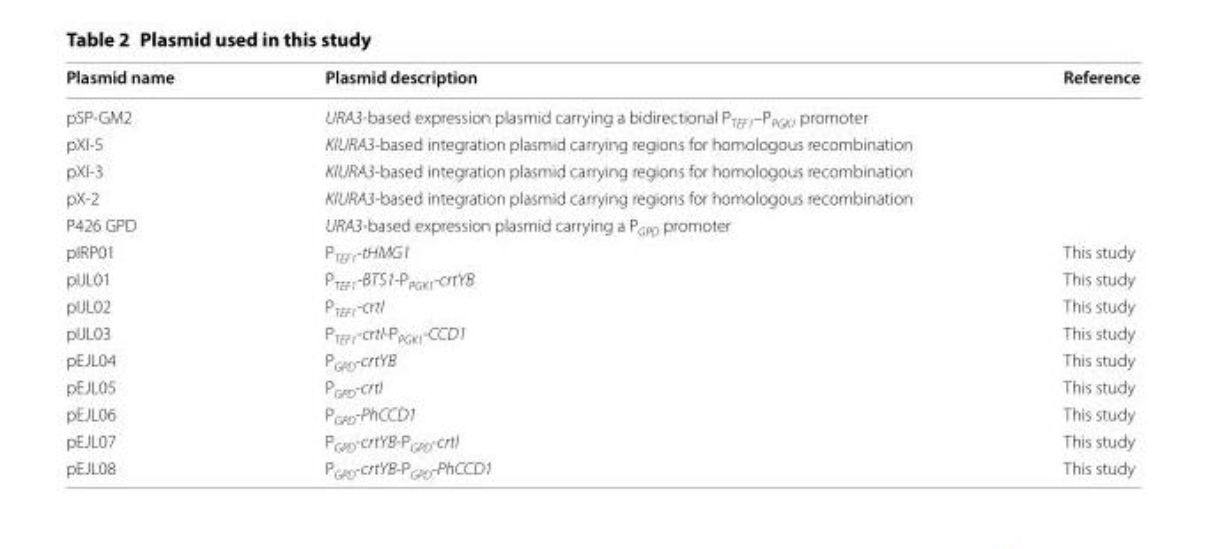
<table><thead><tr><td>Plasmid name</td><td>Plasmid description</td><td>Reference</td></tr></thead><tbody><tr><td>pSP‑GM2</td><td>URA3‑based expression plasmid carrying a bidirectional P<sub>TEF1</sub>–P<sub>PGK1</sub> promoter</td><td></td></tr><tr><td>pXI‑5</td><td>KlURA3‑based integration plasmid carrying regions for homologous recombination</td><td></td></tr><tr><td>pXI‑3</td><td>KlURA3‑based integration plasmid carrying regions for homologous recombination</td><td></td></tr><tr><td>pX‑2</td><td>KlURA3‑based integration plasmid carrying regions for homologous recombination</td><td></td></tr><tr><td>P426 GPD</td><td>URA3‑based expression plasmid carrying a P<sub>GPD</sub> promoter</td><td></td></tr><tr><td>pIRP01</td><td>P<sub>TEF1</sub>‑tHMG1</td><td>This study</td></tr><tr><td>pIJL01</td><td>P<sub>TEF1</sub>‑BTS1‑P<sub>PGK1</sub>‑crtYB</td><td>This study</td></tr><tr><td>pIJL02</td><td>P<sub>TEF1</sub>‑crtI</td><td>This study</td></tr><tr><td>pIJL03</td><td>P<sub>TEF1</sub>‑crtI‑P<sub>PGK1</sub>‑CCD1</td><td>This study</td></tr><tr><td>pEJL04</td><td>P<sub>GPD</sub>‑crtYB</td><td>This study</td></tr><tr><td>pEJL05</td><td>P<sub>GPD</sub>‑crtI</td><td>This study</td></tr><tr><td>pEJL06</td><td>P<sub>GPD</sub>‑PhCCD1</td><td>This study</td></tr><tr><td>pEJL07</td><td>P<sub>GPD</sub>‑crtYB‑P<sub>GPD</sub>‑crtI</td><td>This study</td></tr><tr><td>pEJL08</td><td>P<sub>GPD</sub>‑crtYB‑P<sub>GPD</sub>‑PhCCD1</td><td>This study</td></tr></tbody></table>